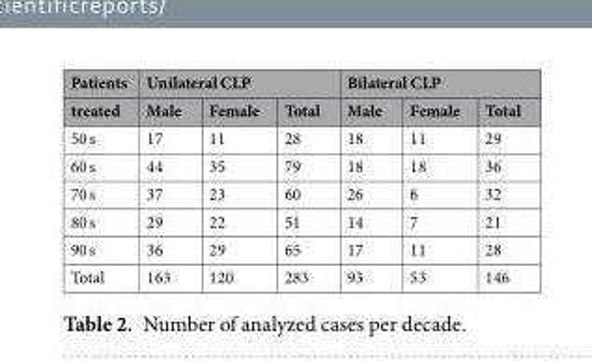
<table><thead><tr><td rowspan="2">Patients treated</td><td colspan="3">Unilateral CLP</td><td colspan="3">Bilateral CLP</td></tr><tr><td>Male</td><td>Female</td><td>Total</td><td>Male</td><td>Female</td><td>Total</td></tr></thead><tbody><tr><td>50 s</td><td>17</td><td>11</td><td>28</td><td>18</td><td>11</td><td>29</td></tr><tr><td>60 s</td><td>44</td><td>35</td><td>79</td><td>18</td><td>18</td><td>36</td></tr><tr><td>70 s</td><td>37</td><td>23</td><td>60</td><td>26</td><td>6</td><td>32</td></tr><tr><td>80 s</td><td>29</td><td>22</td><td>51</td><td>14</td><td>7</td><td>21</td></tr><tr><td>90 s</td><td>36</td><td>29</td><td>65</td><td>17</td><td>11</td><td>28</td></tr><tr><td>Total</td><td>163</td><td>120</td><td>283</td><td>93</td><td>53</td><td>146</td></tr></tbody></table>